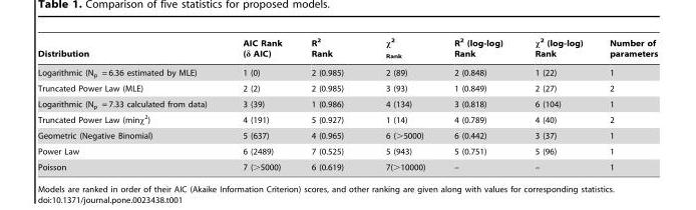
<table><thead><tr><td>Distribution</td><td>AIC Rank (δ AIC)</td><td>R<sup>2</sup> Rank</td><td>χ<sup>2</sup> <sub>Rank</sub></td><td>R<sup>2</sup> (log-log) Rank</td><td>χ<sup>2</sup> (log-log) Rank</td><td>Number of parameters</td></tr></thead><tbody><tr><td>Logarithmic (N<sub>p</sub> = 6.36 estimated by MLE)</td><td>1 (0)</td><td>2 (0.985)</td><td>2 (89)</td><td>2 (0.848)</td><td>1 (22)</td><td>1</td></tr><tr><td>Truncated Power Law (MLE)</td><td>2 (2)</td><td>2 (0.985)</td><td>3 (93)</td><td>1 (0.849)</td><td>2 (27)</td><td>2</td></tr><tr><td>Logarithmic (N<sub>p</sub> = 7.33 calculated from data)</td><td>3 (39)</td><td>1 (0.986)</td><td>4 (134)</td><td>3 (0.818)</td><td>6 (104)</td><td>1</td></tr><tr><td>Truncated Power Law (minχ<sup>2</sup>)</td><td>4 (191)</td><td>5 (0.927)</td><td>1 (14)</td><td>4 (0.789)</td><td>4 (40)</td><td>2</td></tr><tr><td>Geometric (Negative Binomial)</td><td>5 (637)</td><td>4 (0.965)</td><td>6 (&gt;5000)</td><td>6 (0.442)</td><td>3 (37)</td><td>1</td></tr><tr><td>Power Law</td><td>6 (2489)</td><td>7 (0.525)</td><td>5 (943)</td><td>5 (0.751)</td><td>5 (96)</td><td>1</td></tr><tr><td>Poisson</td><td>7 (&gt;5000)</td><td>6 (0.619)</td><td>7(&gt;10000)</td><td>–</td><td>–</td><td>1</td></tr></tbody></table>